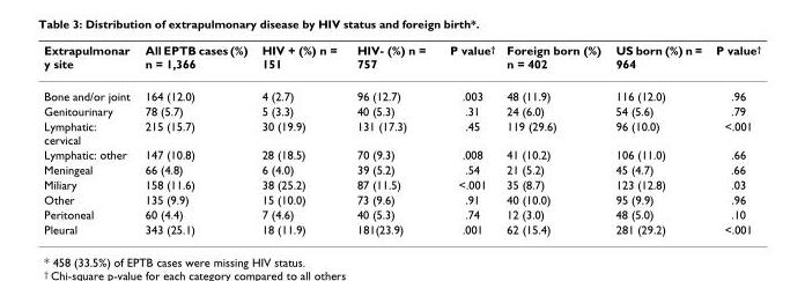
<table><thead><tr><td>Extrapulmonar y site</td><td>All EPTB cases (%) n = 1,366</td><td>HIV + (%) n = 151</td><td>HIV- (%) n = 757</td><td>P value<sup>†</sup></td><td>Foreign born (%) n = 402</td><td>US born (%) n = 964</td><td>P value<sup>†</sup></td></tr></thead><tbody><tr><td>Bone and/or joint</td><td>164 (12.0)</td><td>4 (2.7)</td><td>96 (12.7)</td><td>.003</td><td>48 (11.9)</td><td>116 (12.0)</td><td>.96</td></tr><tr><td>Genitourinary</td><td>78 (5.7)</td><td>5 (3.3)</td><td>40 (5.3)</td><td>.31</td><td>24 (6.0)</td><td>54 (5.6)</td><td>.79</td></tr><tr><td>Lymphatic: cervical</td><td>215 (15.7)</td><td>30 (19.9)</td><td>131 (17.3)</td><td>.45</td><td>119 (29.6)</td><td>96 (10.0)</td><td>&lt;.001</td></tr><tr><td>Lymphatic: other</td><td>147 (10.8)</td><td>28 (18.5)</td><td>70 (9.3)</td><td>.008</td><td>41 (10.2)</td><td>106 (11.0)</td><td>.66</td></tr><tr><td>Meningeal</td><td>66 (4.8)</td><td>6 (4.0)</td><td>39 (5.2)</td><td>.54</td><td>21 (5.2)</td><td>45 (4.7)</td><td>.66</td></tr><tr><td>Miliary</td><td>158 (11.6)</td><td>38 (25.2)</td><td>87 (11.5)</td><td>&lt;.001</td><td>35 (8.7)</td><td>123 (12.8)</td><td>.03</td></tr><tr><td>Other</td><td>135 (9.9)</td><td>15 (10.0)</td><td>73 (9.6)</td><td>.91</td><td>40 (10.0)</td><td>95 (9.9)</td><td>.96</td></tr><tr><td>Peritoneal</td><td>60 (4.4)</td><td>7 (4.6)</td><td>40 (5.3)</td><td>.74</td><td>12 (3.0)</td><td>48 (5.0)</td><td>.10</td></tr><tr><td>Pleural</td><td>343 (25.1)</td><td>18 (11.9)</td><td>181(23.9)</td><td>.001</td><td>62 (15.4)</td><td>281 (29.2)</td><td>&lt;.001</td></tr></tbody></table>